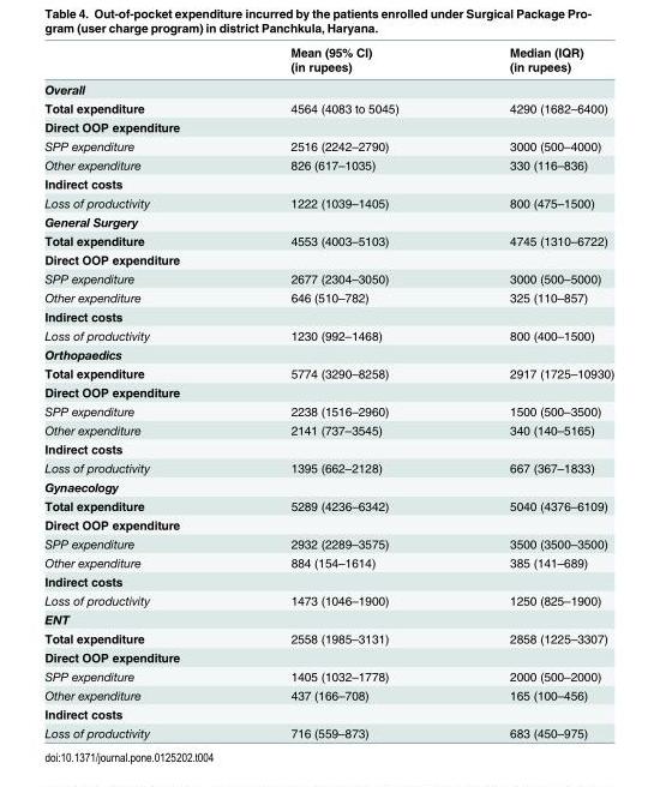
<table><thead><tr><td rowspan="2"></td><td rowspan="2">Mean (95% CI) (in rupees)</td><td rowspan="2">Median (IQR) (in rupees)</td></tr><tr></tr></thead><tbody><tr><td colspan="3">Overall</td></tr><tr><td>Total expenditure</td><td>4564 (4083 to 5045)</td><td>4290 (1682–6400)</td></tr><tr><td colspan="3">Direct OOP expenditure</td></tr><tr><td>SPP expenditure</td><td>2516 (2242–2790)</td><td>3000 (500–4000)</td></tr><tr><td>Other expenditure</td><td>826 (617–1035)</td><td>330 (116–836)</td></tr><tr><td colspan="3">Indirect costs</td></tr><tr><td>Loss of productivity</td><td>1222 (1039–1405)</td><td>800 (475–1500)</td></tr><tr><td colspan="3">General Surgery</td></tr><tr><td>Total expenditure</td><td>4553 (4003–5103)</td><td>4745 (1310–6722)</td></tr><tr><td colspan="3">Direct OOP expenditure</td></tr><tr><td>SPP expenditure</td><td>2677 (2304–3050)</td><td>3000 (500–5000)</td></tr><tr><td>Other expenditure</td><td>646 (510–782)</td><td>325 (110–857)</td></tr><tr><td colspan="3">Indirect costs</td></tr><tr><td>Loss of productivity</td><td>1230 (992–1468)</td><td>800 (400–1500)</td></tr><tr><td colspan="3">Orthopaedics</td></tr><tr><td>Total expenditure</td><td>5774 (3290–8258)</td><td>2917 (1725–10930)</td></tr><tr><td colspan="3">Direct OOP expenditure</td></tr><tr><td>SPP expenditure</td><td>2238 (1516–2960)</td><td>1500 (500–3500)</td></tr><tr><td>Other expenditure</td><td>2141 (737–3545)</td><td>340 (140–5165)</td></tr><tr><td colspan="3">Indirect costs</td></tr><tr><td>Loss of productivity</td><td>1395 (662–2128)</td><td>667 (367–1833)</td></tr><tr><td colspan="3">Gynaecology</td></tr><tr><td>Total expenditure</td><td>5289 (4236–6342)</td><td>5040 (4376–6109)</td></tr><tr><td colspan="3">Direct OOP expenditure</td></tr><tr><td>SPP expenditure</td><td>2932 (2289–3575)</td><td>3500 (3500–3500)</td></tr><tr><td>Other expenditure</td><td>884 (154–1614)</td><td>385 (141–689)</td></tr><tr><td colspan="3">Indirect costs</td></tr><tr><td>Loss of productivity</td><td>1473 (1046–1900)</td><td>1250 (825–1900)</td></tr><tr><td colspan="3">ENT</td></tr><tr><td>Total expenditure</td><td>2558 (1985–3131)</td><td>2858 (1225–3307)</td></tr><tr><td colspan="3">Direct OOP expenditure</td></tr><tr><td>SPP expenditure</td><td>1405 (1032–1778)</td><td>2000 (500–2000)</td></tr><tr><td>Other expenditure</td><td>437 (166–708)</td><td>165 (100–456)</td></tr><tr><td colspan="3">Indirect costs</td></tr><tr><td>Loss of productivity</td><td>716 (559–873)</td><td>683 (450–975)</td></tr></tbody></table>